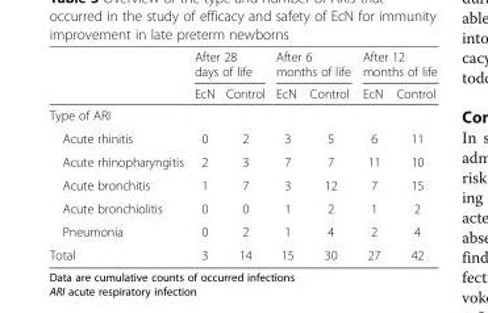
<table><thead><tr><td rowspan="2"></td><td colspan="2">After 28 days of life</td><td colspan="2">After 6 months of life</td><td colspan="2">After 12 months of life</td></tr><tr><td>EcN</td><td>Control</td><td>EcN</td><td>Control</td><td>EcN</td><td>Control</td></tr></thead><tbody><tr><td colspan="7">Type of ARI</td></tr><tr><td>Acute rhinitis</td><td>0</td><td>2</td><td>3</td><td>5</td><td>6</td><td>11</td></tr><tr><td>Acute rhinopharyngitis</td><td>2</td><td>3</td><td>7</td><td>7</td><td>11</td><td>10</td></tr><tr><td>Acute bronchitis</td><td>1</td><td>7</td><td>3</td><td>12</td><td>7</td><td>15</td></tr><tr><td>Acute bronchiolitis</td><td>0</td><td>0</td><td>1</td><td>2</td><td>1</td><td>2</td></tr><tr><td>Pneumonia</td><td>0</td><td>2</td><td>1</td><td>4</td><td>2</td><td>4</td></tr><tr><td>Total</td><td>3</td><td>14</td><td>15</td><td>30</td><td>27</td><td>42</td></tr></tbody></table>